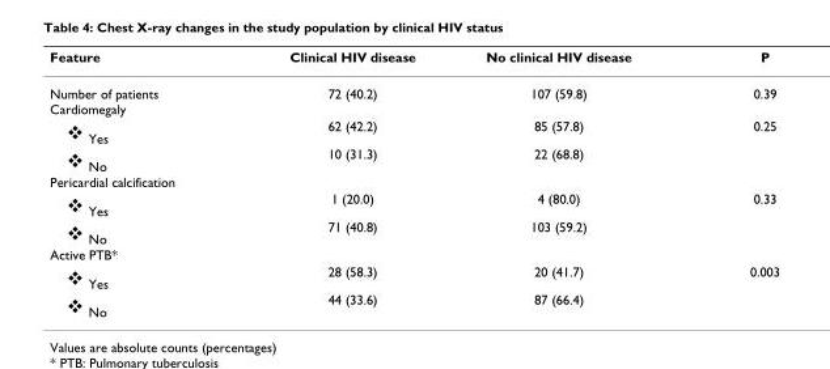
<table><thead><tr><td>Feature</td><td>Clinical HIV disease</td><td>No clinical HIV disease</td><td>P</td></tr></thead><tbody><tr><td>Number of patients Cardiomegaly</td><td>72 (40.2)</td><td>107 (59.8)</td><td>0.39</td></tr><tr><td>Yes �</td><td>62 (42.2)</td><td>85 (57.8)</td><td>0.25</td></tr><tr><td>No �</td><td>10 (31.3)</td><td>22 (68.8)</td><td></td></tr><tr><td colspan="4">Pericardial calcification</td></tr><tr><td>Yes �</td><td>1 (20.0)</td><td>4 (80.0)</td><td>0.33</td></tr><tr><td>No �</td><td>71 (40.8)</td><td>103 (59.2)</td><td></td></tr><tr><td colspan="4">Active PTB*</td></tr><tr><td>Yes �</td><td>28 (58.3)</td><td>20 (41.7)</td><td>0.003</td></tr><tr><td>No �</td><td>44 (33.6)</td><td>87 (66.4)</td><td></td></tr></tbody></table>